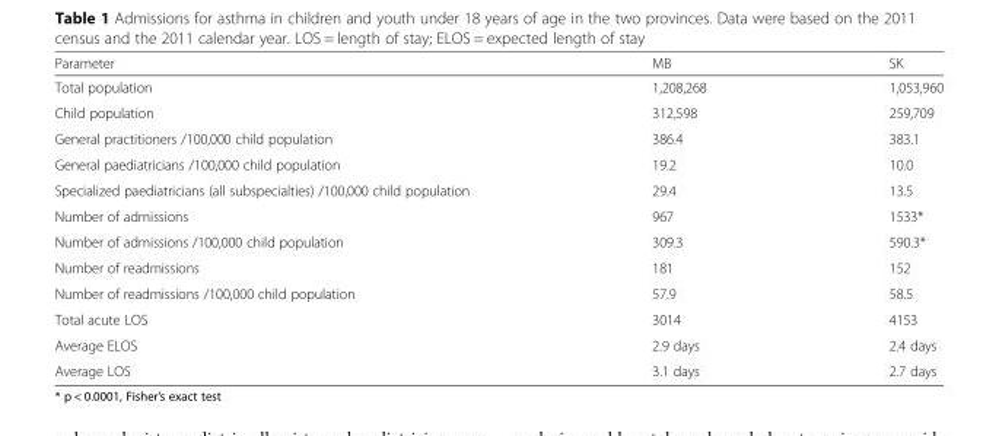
<table><thead><tr><td>Parameter</td><td>MB</td><td>SK</td></tr></thead><tbody><tr><td>Total population</td><td>1,208,268</td><td>1,053,960</td></tr><tr><td>Child population</td><td>312,598</td><td>259,709</td></tr><tr><td>General practitioners /100,000 child population</td><td>386.4</td><td>383.1</td></tr><tr><td>General paediatricians /100,000 child population</td><td>19.2</td><td>10.0</td></tr><tr><td>Specialized paediatricians (all subspecialties) /100,000 child population</td><td>29.4</td><td>13.5</td></tr><tr><td>Number of admissions</td><td>967</td><td>1533*</td></tr><tr><td>Number of admissions /100,000 child population</td><td>309.3</td><td>590.3*</td></tr><tr><td>Number of readmissions</td><td>181</td><td>152</td></tr><tr><td>Number of readmissions /100,000 child population</td><td>57.9</td><td>58.5</td></tr><tr><td>Total acute LOS</td><td>3014</td><td>4153</td></tr><tr><td>Average ELOS</td><td>2.9 days</td><td>2.4 days</td></tr><tr><td>Average LOS</td><td>3.1 days</td><td>2.7 days</td></tr></tbody></table>